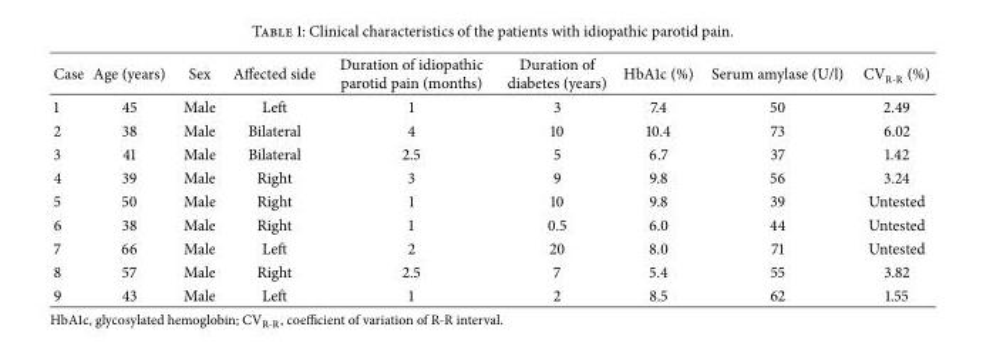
<table><thead><tr><td>Case</td><td>Age (years)</td><td>Sex</td><td>Affected side</td><td>Duration of idiopathic parotid pain (months)</td><td>Duration of diabetes (years)</td><td>HbA1c (%)</td><td>Serum amylase (U/l)</td><td>CV<sub>R-R</sub> (%)</td></tr></thead><tbody><tr><td>1</td><td>45</td><td>Male</td><td>Left</td><td>1</td><td>3</td><td>7.4</td><td>50</td><td>2.49</td></tr><tr><td>2</td><td>38</td><td>Male</td><td>Bilateral</td><td>4</td><td>10</td><td>10.4</td><td>73</td><td>6.02</td></tr><tr><td>3</td><td>41</td><td>Male</td><td>Bilateral</td><td>2.5</td><td>5</td><td>6.7</td><td>37</td><td>1.42</td></tr><tr><td>4</td><td>39</td><td>Male</td><td>Right</td><td>3</td><td>9</td><td>9.8</td><td>56</td><td>3.24</td></tr><tr><td>5</td><td>50</td><td>Male</td><td>Right</td><td>1</td><td>10</td><td>9.8</td><td>39</td><td>Untested</td></tr><tr><td>6</td><td>38</td><td>Male</td><td>Right</td><td>1</td><td>0.5</td><td>6.0</td><td>44</td><td>Untested</td></tr><tr><td>7</td><td>66</td><td>Male</td><td>Left</td><td>2</td><td>20</td><td>8.0</td><td>71</td><td>Untested</td></tr><tr><td>8</td><td>57</td><td>Male</td><td>Right</td><td>2.5</td><td>7</td><td>5.4</td><td>55</td><td>3.82</td></tr><tr><td>9</td><td>43</td><td>Male</td><td>Left</td><td>1</td><td>2</td><td>8.5</td><td>62</td><td>1.55</td></tr></tbody></table>